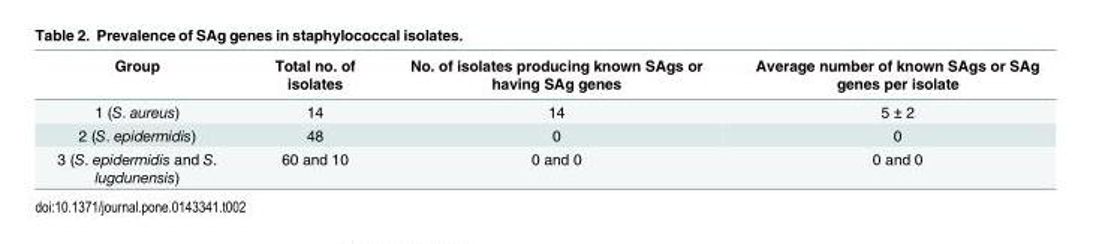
<table><thead><tr><td>Group</td><td>Total no. of isolates</td><td>No. of isolates producing known SAgs or having SAg genes</td><td>Average number of known SAgs or SAg genes per isolate</td></tr></thead><tbody><tr><td>1 (S. aureus)</td><td>14</td><td>14</td><td>5 ± 2</td></tr><tr><td>2 (S. epidermidis)</td><td>48</td><td>0</td><td>0</td></tr><tr><td>3 (S. epidermidis and S. lugdunensis)</td><td>60 and 10</td><td>0 and 0</td><td>0 and 0</td></tr></tbody></table>